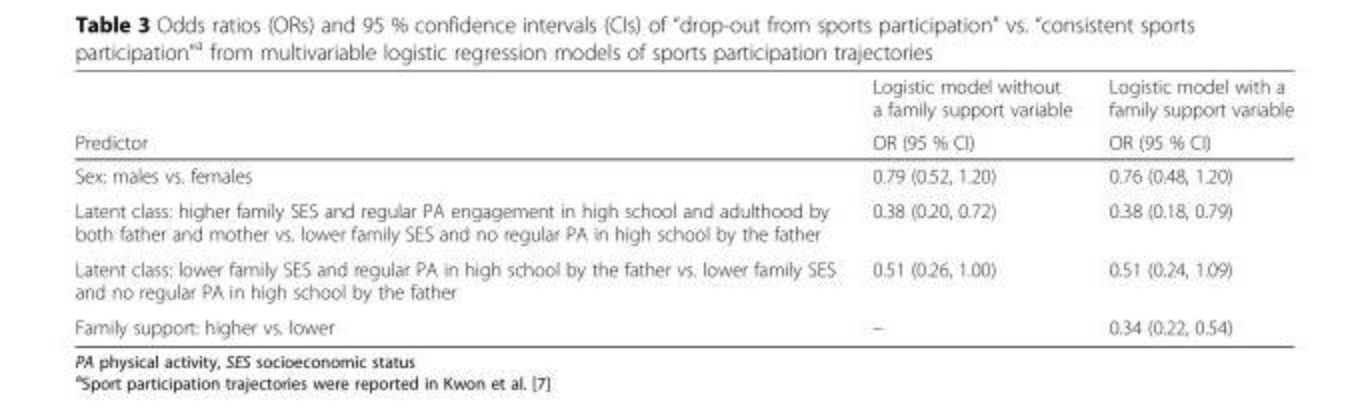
<table><thead><tr><td rowspan="2">Predictor</td><td rowspan="2">Logistic model without a family support variable OR (95 % CI)</td><td rowspan="2">Logistic model with a family support variable OR (95 % CI)</td></tr><tr></tr></thead><tbody><tr><td>Sex: males vs. females</td><td>0.79 (0.52, 1.20)</td><td>0.76 (0.48, 1.20)</td></tr><tr><td>Latent class: higher family SES and regular PA engagement in high school and adulthood by both father and mother vs. lower family SES and no regular PA in high school by the father</td><td>0.38 (0.20, 0.72)</td><td>0.38 (0.18, 0.79)</td></tr><tr><td>Latent class: lower family SES and regular PA in high school by the father vs. lower family SES and no regular PA in high school by the father</td><td>0.51 (0.26, 1.00)</td><td>0.51 (0.24, 1.09)</td></tr><tr><td>Family support: higher vs. lower</td><td>–</td><td>0.34 (0.22, 0.54)</td></tr></tbody></table>